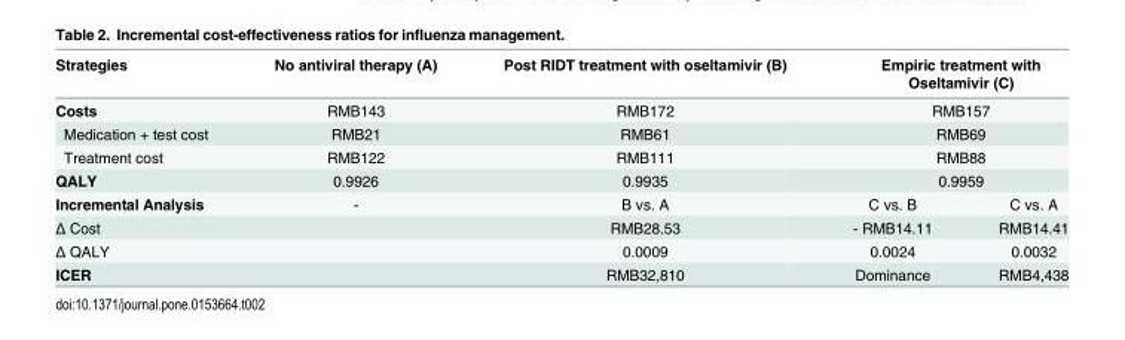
<table><thead><tr><td>Strategies</td><td>No antiviral therapy (A)</td><td>Post RIDT treatment with oseltamivir (B)</td><td colspan="2">Empiric treatment with Oseltamivir (C)</td></tr></thead><tbody><tr><td>Costs</td><td>RMB143</td><td>RMB172</td><td colspan="2">RMB157</td></tr><tr><td>Medication + test cost</td><td>RMB21</td><td>RMB61</td><td colspan="2">RMB69</td></tr><tr><td>Treatment cost</td><td>RMB122</td><td>RMB111</td><td colspan="2">RMB88</td></tr><tr><td>QALY</td><td>0.9926</td><td>0.9935</td><td colspan="2">0.9959</td></tr><tr><td>Incremental Analysis</td><td>-</td><td>B vs. A</td><td>C vs. B</td><td>C vs. A</td></tr><tr><td>Δ Cost</td><td></td><td>RMB28.53</td><td>- RMB14.11</td><td>RMB14.41</td></tr><tr><td>Δ QALY</td><td></td><td>0.0009</td><td>0.0024</td><td>0.0032</td></tr><tr><td>ICER</td><td></td><td>RMB32,810</td><td>Dominance</td><td>RMB4,438</td></tr></tbody></table>